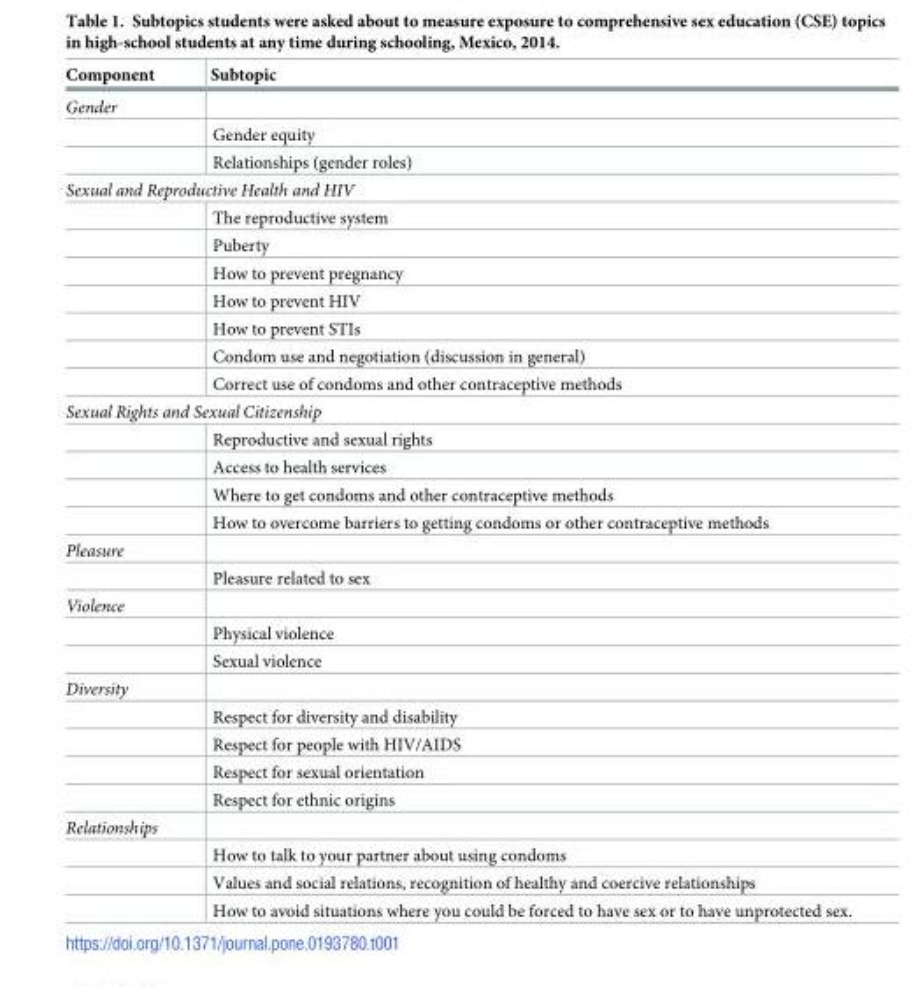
<table><thead><tr><td>Component</td><td>Subtopic</td></tr></thead><tbody><tr><td colspan="2">Gender</td></tr><tr><td></td><td>Gender equity</td></tr><tr><td></td><td>Relationships (gender roles)</td></tr><tr><td colspan="2">Sexual and Reproductive Health and HIV</td></tr><tr><td></td><td>The reproductive system</td></tr><tr><td></td><td>Puberty</td></tr><tr><td></td><td>How to prevent pregnancy</td></tr><tr><td></td><td>How to prevent HIV</td></tr><tr><td></td><td>How to prevent STIs</td></tr><tr><td></td><td>Condom use and negotiation (discussion in general)</td></tr><tr><td></td><td>Correct use of condoms and other contraceptive methods</td></tr><tr><td colspan="2">Sexual Rights and Sexual Citizenship</td></tr><tr><td></td><td>Reproductive and sexual rights</td></tr><tr><td></td><td>Access to health services</td></tr><tr><td></td><td>Where to get condoms and other contraceptive methods</td></tr><tr><td></td><td>How to overcome barriers to getting condoms or other contraceptive methods</td></tr><tr><td colspan="2">Pleasure</td></tr><tr><td></td><td>Pleasure related to sex</td></tr><tr><td colspan="2">Violence</td></tr><tr><td></td><td>Physical violence</td></tr><tr><td></td><td>Sexual violence</td></tr><tr><td colspan="2">Diversity</td></tr><tr><td></td><td>Respect for diversity and disability</td></tr><tr><td></td><td>Respect for people with HIV/AIDS</td></tr><tr><td></td><td>Respect for sexual orientation</td></tr><tr><td></td><td>Respect for ethnic origins</td></tr><tr><td colspan="2">Relationships</td></tr><tr><td></td><td>How to talk to your partner about using condoms</td></tr><tr><td></td><td>Values and social relations, recognition of healthy and coercive relationships</td></tr><tr><td></td><td>How to avoid situations where you could be forced to have sex or to have unprotected sex.</td></tr></tbody></table>